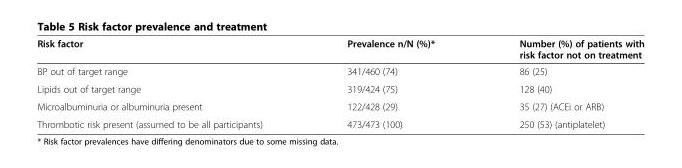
<table><thead><tr><td>Risk factor</td><td>Prevalence n/N (%)*</td><td>Number (%) of patients with risk factor not on treatment</td></tr></thead><tbody><tr><td>BP out of target range</td><td>341/460 (74)</td><td>86 (25)</td></tr><tr><td>Lipids out of target range</td><td>319/424 (75)</td><td>128 (40)</td></tr><tr><td>Microalbuminuria or albuminuria present</td><td>122/428 (29)</td><td>35 (27) (ACEi or ARB)</td></tr><tr><td>Thrombotic risk present (assumed to be all participants)</td><td>473/473 (100)</td><td>250 (53) (antiplatelet)</td></tr></tbody></table>